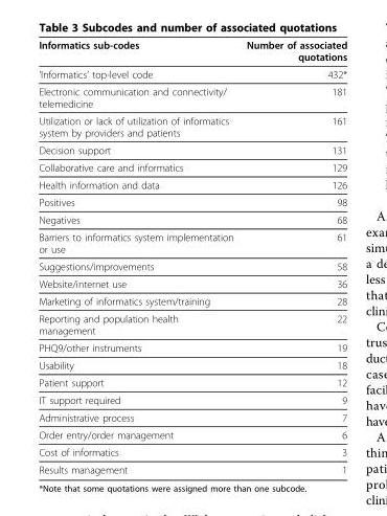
<table><thead><tr><td>Informatics sub-codes</td><td>Number of associated quotations</td></tr></thead><tbody><tr><td>’Informatics’ top-level code</td><td>432*</td></tr><tr><td>Electronic communication and connectivity/ telemedicine</td><td>181</td></tr><tr><td>Utilization or lack of utilization of informatics system by providers and patients</td><td>161</td></tr><tr><td>Decision support</td><td>131</td></tr><tr><td>Collaborative care and informatics</td><td>129</td></tr><tr><td>Health information and data</td><td>126</td></tr><tr><td>Positives</td><td>98</td></tr><tr><td>Negatives</td><td>68</td></tr><tr><td>Barriers to informatics system implementation or use</td><td>61</td></tr><tr><td>Suggestions/improvements</td><td>58</td></tr><tr><td>Website/internet use</td><td>36</td></tr><tr><td>Marketing of informatics system/training</td><td>28</td></tr><tr><td>Reporting and population health management</td><td>22</td></tr><tr><td>PHQ9/other instruments</td><td>19</td></tr><tr><td>Usability</td><td>18</td></tr><tr><td>Patient support</td><td>12</td></tr><tr><td>IT support required</td><td>9</td></tr><tr><td>Administrative process</td><td>7</td></tr><tr><td>Order entry/order management</td><td>6</td></tr><tr><td>Cost of informatics</td><td>3</td></tr><tr><td>Results management</td><td>1</td></tr></tbody></table>